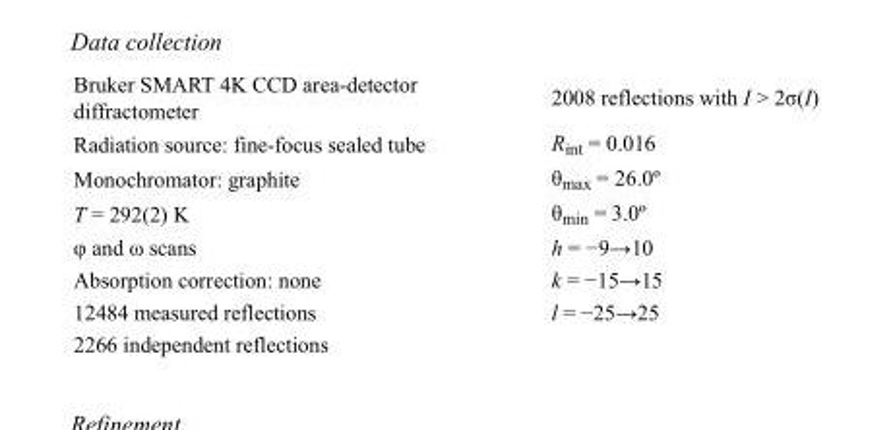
<table><tbody><tr><td>Bruker SMART 4K CCD area-detector diffractometer</td><td>2008 reflections with I &gt; 2σ(I)</td></tr><tr><td>Radiation source: fine-focus sealed tube</td><td>R<sub>int</sub> = 0.016</td></tr><tr><td>Monochromator: graphite</td><td>θ<sub>max</sub> = 26.0º</td></tr><tr><td>T = 292(2) K</td><td>θ<sub>min</sub> = 3.0º</td></tr><tr><td>φ and ω scans</td><td>h = −9→10</td></tr><tr><td>Absorption correction: none</td><td>k = −15→15</td></tr><tr><td>12484 measured reflections</td><td>l = −25→25</td></tr><tr><td>2266 independent reflections</td><td></td></tr></tbody></table>